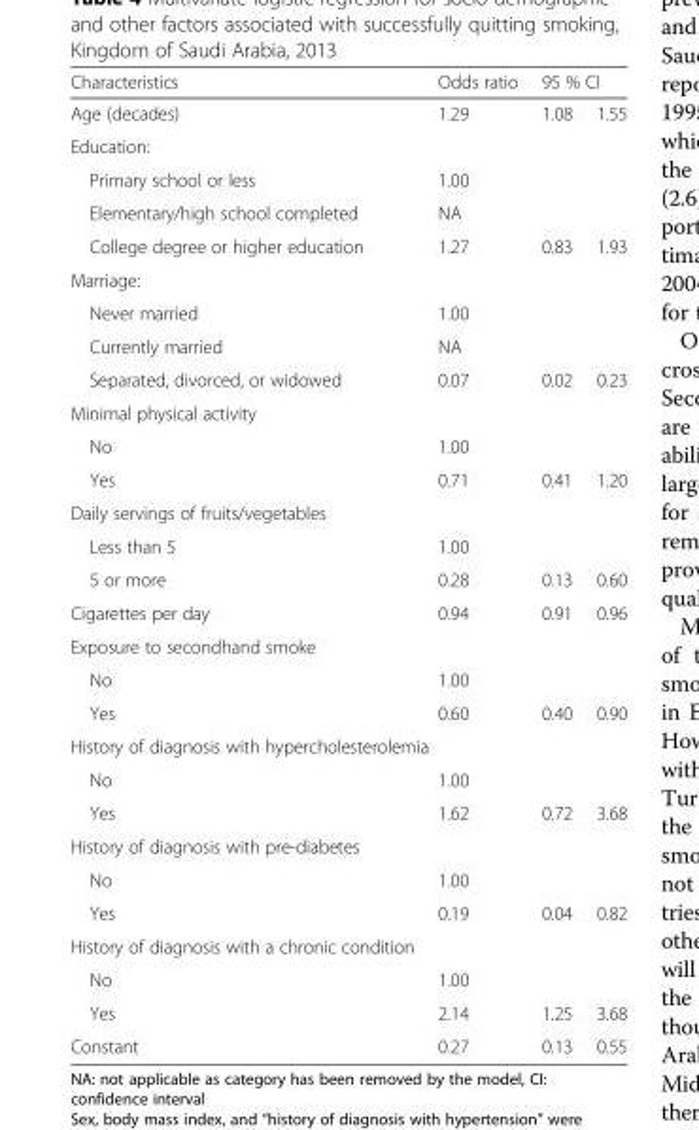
<table><thead><tr><td rowspan="2">Characteristics Age (decades)</td><td rowspan="2">Odds ratio 1.29</td><td colspan="2">95 % CI</td></tr><tr><td>1.08</td><td>1.55</td></tr></thead><tbody><tr><td colspan="4">Education:</td></tr><tr><td>Primary school or less</td><td>1.00</td><td></td><td></td></tr><tr><td>Elementary/high school completed</td><td>NA</td><td></td><td></td></tr><tr><td>College degree or higher education</td><td>1.27</td><td>0.83</td><td>1.93</td></tr><tr><td colspan="4">Marriage:</td></tr><tr><td>Never married</td><td>1.00</td><td></td><td></td></tr><tr><td>Currently married</td><td>NA</td><td></td><td></td></tr><tr><td>Separated, divorced, or widowed</td><td>0.07</td><td>0.02</td><td>0.23</td></tr><tr><td colspan="4">Minimal physical activity</td></tr><tr><td>No</td><td>1.00</td><td></td><td></td></tr><tr><td>Yes</td><td>0.71</td><td>0.41</td><td>1.20</td></tr><tr><td colspan="4">Daily servings of fruits/vegetables</td></tr><tr><td>Less than 5</td><td>1.00</td><td></td><td></td></tr><tr><td>5 or more</td><td>0.28</td><td>0.13</td><td>0.60</td></tr><tr><td>Cigarettes per day</td><td>0.94</td><td>0.91</td><td>0.96</td></tr><tr><td colspan="4">Exposure to secondhand smoke</td></tr><tr><td>No</td><td>1.00</td><td></td><td></td></tr><tr><td>Yes</td><td>0.60</td><td>0.40</td><td>0.90</td></tr><tr><td colspan="4">History of diagnosis with hypercholesterolemia</td></tr><tr><td>No</td><td>1.00</td><td></td><td></td></tr><tr><td>Yes</td><td>1.62</td><td>0.72</td><td>3.68</td></tr><tr><td colspan="4">History of diagnosis with pre-diabetes</td></tr><tr><td>No</td><td>1.00</td><td></td><td></td></tr><tr><td>Yes</td><td>0.19</td><td>0.04</td><td>0.82</td></tr><tr><td colspan="4">History of diagnosis with a chronic condition</td></tr><tr><td>No</td><td>1.00</td><td></td><td></td></tr><tr><td>Yes</td><td>2.14</td><td>1.25</td><td>3.68</td></tr><tr><td>Constant</td><td>0.27</td><td>0.13</td><td>0.55</td></tr></tbody></table>